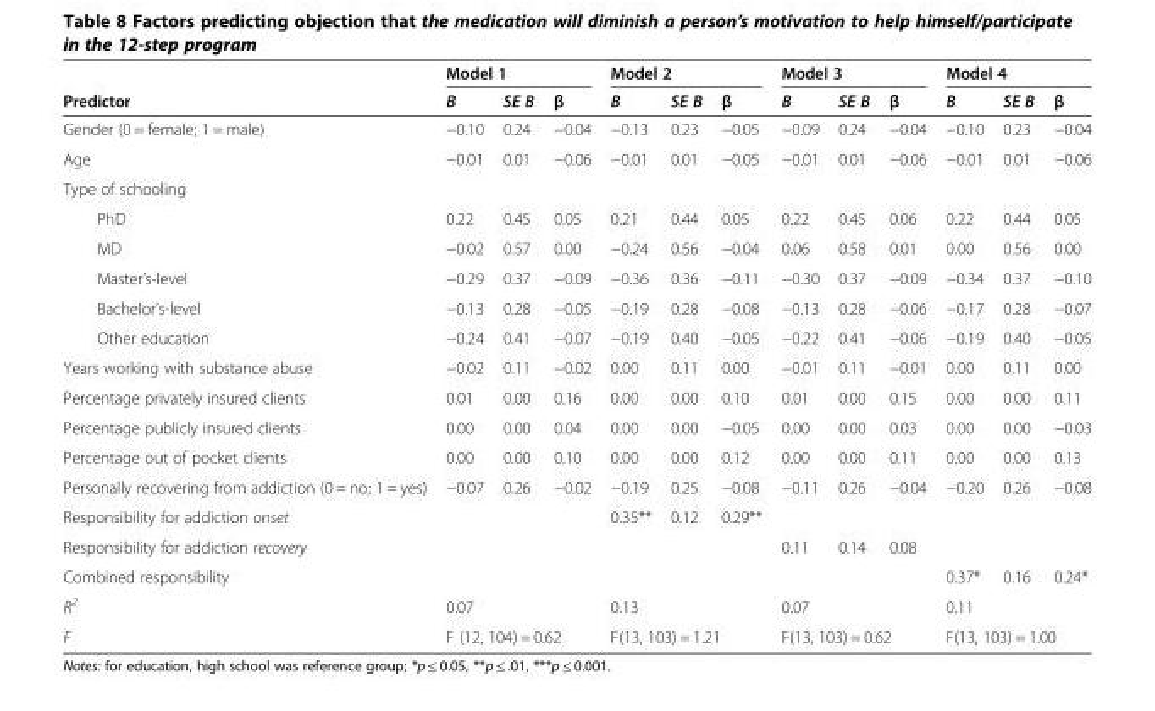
<table><thead><tr><td rowspan="2">Predictor</td><td colspan="3">Model 1</td><td colspan="3">Model 2</td><td colspan="3">Model 3</td><td colspan="3">Model 4</td></tr><tr><td>B</td><td>SE B</td><td>β</td><td>B</td><td>SE B</td><td>β</td><td>B</td><td>SE B</td><td>β</td><td>B</td><td>SE B</td><td>β</td></tr></thead><tbody><tr><td>Gender (0 = female; 1 = male)</td><td>−0.10</td><td>0.24</td><td>−0.04</td><td>−0.13</td><td>0.23</td><td>−0.05</td><td>−0.09</td><td>0.24</td><td>−0.04</td><td>−0.10</td><td>0.23</td><td>−0.04</td></tr><tr><td>Age</td><td>−0.01</td><td>0.01</td><td>−0.06</td><td>−0.01</td><td>0.01</td><td>−0.05</td><td>−0.01</td><td>0.01</td><td>−0.06</td><td>−0.01</td><td>0.01</td><td>−0.06</td></tr><tr><td colspan="13">Type of schooling</td></tr><tr><td>PhD</td><td>0.22</td><td>0.45</td><td>0.05</td><td>0.21</td><td>0.44</td><td>0.05</td><td>0.22</td><td>0.45</td><td>0.06</td><td>0.22</td><td>0.44</td><td>0.05</td></tr><tr><td>MD</td><td>−0.02</td><td>0.57</td><td>0.00</td><td>−0.24</td><td>0.56</td><td>−0.04</td><td>0.06</td><td>0.58</td><td>0.01</td><td>0.00</td><td>0.56</td><td>0.00</td></tr><tr><td>Master’s-level</td><td>−0.29</td><td>0.37</td><td>−0.09</td><td>−0.36</td><td>0.36</td><td>−0.11</td><td>−0.30</td><td>0.37</td><td>−0.09</td><td>−0.34</td><td>0.37</td><td>−0.10</td></tr><tr><td>Bachelor’s-level</td><td>−0.13</td><td>0.28</td><td>−0.05</td><td>−0.19</td><td>0.28</td><td>−0.08</td><td>−0.13</td><td>0.28</td><td>−0.06</td><td>−0.17</td><td>0.28</td><td>−0.07</td></tr><tr><td>Other education</td><td>−0.24</td><td>0.41</td><td>−0.07</td><td>−0.19</td><td>0.40</td><td>−0.05</td><td>−0.22</td><td>0.41</td><td>−0.06</td><td>−0.19</td><td>0.40</td><td>−0.05</td></tr><tr><td>Years working with substance abuse</td><td>−0.02</td><td>0.11</td><td>−0.02</td><td>0.00</td><td>0.11</td><td>0.00</td><td>−0.01</td><td>0.11</td><td>−0.01</td><td>0.00</td><td>0.11</td><td>0.00</td></tr><tr><td>Percentage privately insured clients</td><td>0.01</td><td>0.00</td><td>0.16</td><td>0.00</td><td>0.00</td><td>0.10</td><td>0.01</td><td>0.00</td><td>0.15</td><td>0.00</td><td>0.00</td><td>0.11</td></tr><tr><td>Percentage publicly insured clients</td><td>0.00</td><td>0.00</td><td>0.04</td><td>0.00</td><td>0.00</td><td>−0.05</td><td>0.00</td><td>0.00</td><td>0.03</td><td>0.00</td><td>0.00</td><td>−0.03</td></tr><tr><td>Percentage out of pocket clients</td><td>0.00</td><td>0.00</td><td>0.10</td><td>0.00</td><td>0.00</td><td>0.12</td><td>0.00</td><td>0.00</td><td>0.11</td><td>0.00</td><td>0.00</td><td>0.13</td></tr><tr><td>Personally recovering from addiction (0 = no; 1 = yes)</td><td>−0.07</td><td>0.26</td><td>−0.02</td><td>−0.19</td><td>0.25</td><td>−0.08</td><td>−0.11</td><td>0.26</td><td>−0.04</td><td>−0.20</td><td>0.26</td><td>−0.08</td></tr><tr><td>Responsibility for addiction onset</td><td></td><td></td><td></td><td>0.35**</td><td>0.12</td><td>0.29**</td><td></td><td></td><td></td><td></td><td></td><td></td></tr><tr><td>Responsibility for addiction recovery</td><td></td><td></td><td></td><td></td><td></td><td></td><td>0.11</td><td>0.14</td><td>0.08</td><td></td><td></td><td></td></tr><tr><td>Combined responsibility</td><td></td><td></td><td></td><td></td><td colspan="3"></td><td colspan="2"></td><td>0.37*</td><td>0.16</td><td>0.24*</td></tr><tr><td>R<sup>2</sup></td><td colspan="3">0.07</td><td colspan="3">0.13</td><td colspan="3">0.07</td><td colspan="3">0.11</td></tr><tr><td>F</td><td colspan="3">F (12, 104) = 0.62</td><td colspan="3">F(13, 103) = 1.21</td><td colspan="3">F(13, 103) = 0.62</td><td colspan="3">F(13, 103) = 1.00</td></tr></tbody></table>